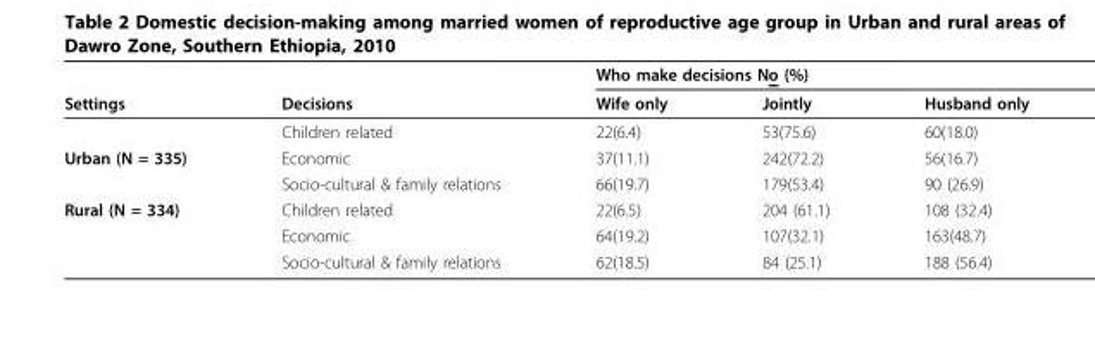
<table><thead><tr><td rowspan="2">Settings</td><td rowspan="2">Decisions</td><td colspan="3">Who make decisions No (%)</td></tr><tr><td>Wife only</td><td>Jointly</td><td>Husband only</td></tr></thead><tbody><tr><td></td><td>Children related</td><td>22(6.4)</td><td>53(75.6)</td><td>60(18.0)</td></tr><tr><td rowspan="2">Urban (N = 335)</td><td>Economic</td><td>37(11.1)</td><td>242(72.2)</td><td>56(16.7)</td></tr><tr><td>Socio-cultural &amp; family relations</td><td>66(19.7)</td><td>179(53.4)</td><td>90 (26.9)</td></tr><tr><td rowspan="3">Rural (N = 334)</td><td>Children related</td><td>22(6.5)</td><td>204 (61.1)</td><td>108 (32.4)</td></tr><tr><td>Economic</td><td>64(19.2)</td><td>107(32.1)</td><td>163(48.7)</td></tr><tr><td>Socio-cultural &amp; family relations</td><td>62(18.5)</td><td>84 (25.1)</td><td>188 (56.4)</td></tr></tbody></table>